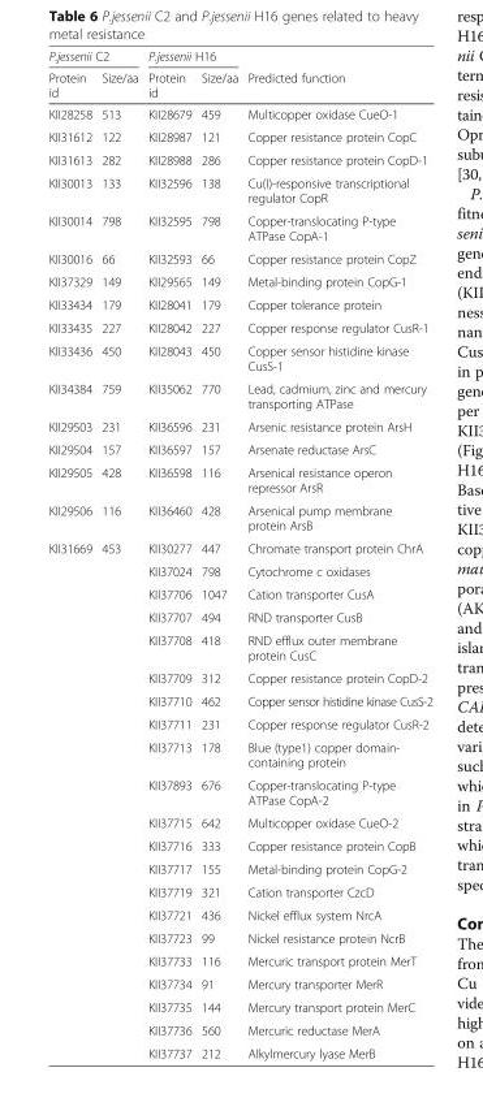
<table><thead><tr><td colspan="2">P.jessenii C2</td><td colspan="2">P.jessenii H16</td><td rowspan="2">Predicted function</td></tr><tr><td>Protein id</td><td>Size/aa</td><td>Protein id</td><td>Size/aa</td></tr></thead><tbody><tr><td>KII28258</td><td>513</td><td>KII28679</td><td>459</td><td>Multicopper oxidase CueO-1</td></tr><tr><td>KII31612</td><td>122</td><td>KII28987</td><td>121</td><td>Copper resistance protein CopC</td></tr><tr><td>KII31613</td><td>282</td><td>KII28988</td><td>286</td><td>Copper resistance protein CopD-1</td></tr><tr><td>KII30013</td><td>133</td><td>KII32596</td><td>138</td><td>Cu(I)-responsive transcriptional regulator CopR</td></tr><tr><td>KII30014</td><td>798</td><td>KII32595</td><td>798</td><td>Copper-translocating P-type ATPase CopA-1</td></tr><tr><td>KII30016</td><td>66</td><td>KII32593</td><td>66</td><td>Copper resistance protein CopZ</td></tr><tr><td>KII37329</td><td>149</td><td>KII29565</td><td>149</td><td>Metal-binding protein CopG-1</td></tr><tr><td>KII33434</td><td>179</td><td>KII28041</td><td>179</td><td>Copper tolerance protein</td></tr><tr><td>KII33435</td><td>227</td><td>KII28042</td><td>227</td><td>Copper response regulator CusR-1</td></tr><tr><td>KII33436</td><td>450</td><td>KII28043</td><td>450</td><td>Copper sensor histidine kinase CusS-1</td></tr><tr><td>KII34384</td><td>759</td><td>KII35062</td><td>770</td><td>Lead, cadmium, zinc and mercury transporting ATPase</td></tr><tr><td>KII29503</td><td>231</td><td>KII36596</td><td>231</td><td>Arsenic resistance protein ArsH</td></tr><tr><td>KII29504</td><td>157</td><td>KII36597</td><td>157</td><td>Arsenate reductase ArsC</td></tr><tr><td>KII29505</td><td>428</td><td>KII36598</td><td>116</td><td>Arsenical resistance operon repressor ArsR</td></tr><tr><td>KII29506</td><td>116</td><td>KII36460</td><td>428</td><td>Arsenical pump membrane protein ArsB</td></tr><tr><td rowspan="21">KII31669</td><td rowspan="21">453</td><td>KII30277</td><td>447</td><td>Chromate transport protein ChrA</td></tr><tr><td>KII37024</td><td>798</td><td>Cytochrome c oxidases</td></tr><tr><td>KII37706</td><td>1047</td><td>Cation transporter CusA</td></tr><tr><td>KII37707</td><td>494</td><td>RND transporter CusB</td></tr><tr><td>KII37708</td><td>418</td><td>RND efflux outer membrane protein CusC</td></tr><tr><td>KII37709</td><td>312</td><td>Copper resistance protein CopD-2</td></tr><tr><td>KII37710</td><td>462</td><td>Copper sensor histidine kinase CusS-2</td></tr><tr><td>KII37711</td><td>231</td><td>Copper response regulator CusR-2</td></tr><tr><td>KII37713</td><td>178</td><td>Blue (type1) copper domain- containing protein</td></tr><tr><td>KII37893</td><td>676</td><td>Copper-translocating P-type ATPase CopA-2</td></tr><tr><td>KII37715</td><td>642</td><td>Multicopper oxidase CueO-2</td></tr><tr><td>KII37716</td><td>333</td><td>Copper resistance protein CopB</td></tr><tr><td>KII37717</td><td>155</td><td>Metal-binding protein CopG-2</td></tr><tr><td>KII37719</td><td>321</td><td>Cation transporter CzcD</td></tr><tr><td>KII37721</td><td>436</td><td>Nickel efflux system NrcA</td></tr><tr><td>KII37723</td><td>99</td><td>Nickel resistance protein NcrB</td></tr><tr><td>KII37733</td><td>116</td><td>Mercuric transport protein MerT</td></tr><tr><td>KII37734</td><td>91</td><td>Mercury transporter MerR</td></tr><tr><td>KII37735</td><td>144</td><td>Mercury transport protein MerC</td></tr><tr><td>KII37736</td><td>560</td><td>Mercuric reductase MerA</td></tr><tr><td>KII37737</td><td>212</td><td>Alkylmercury lyase MerB</td></tr></tbody></table>